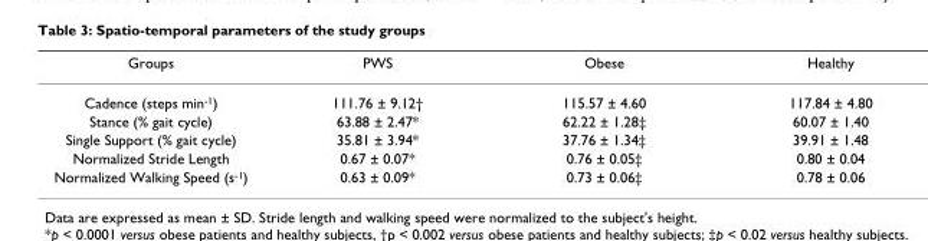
<table><thead><tr><td>Groups</td><td>PWS</td><td>Obese</td><td>Healthy</td></tr></thead><tbody><tr><td>Cadence (steps min<sup>-1</sup>)</td><td>111.76 ± 9.12†</td><td>115.57 ± 4.60</td><td>117.84 ± 4.80</td></tr><tr><td>Stance (% gait cycle)</td><td>63.88 ± 2.47*</td><td>62.22 ± 1.28‡</td><td>60.07 ± 1.40</td></tr><tr><td>Single Support (% gait cycle)</td><td>35.81 ± 3.94*</td><td>37.76 ± 1.34‡</td><td>39.91 ± 1.48</td></tr><tr><td>Normalized Stride Length</td><td>0.67 ± 0.07*</td><td>0.76 ± 0.05‡</td><td>0.80 ± 0.04</td></tr><tr><td>Normalized Walking Speed (s<sup>-1</sup>)</td><td>0.63 ± 0.09*</td><td>0.73 ± 0.06‡</td><td>0.78 ± 0.06</td></tr></tbody></table>